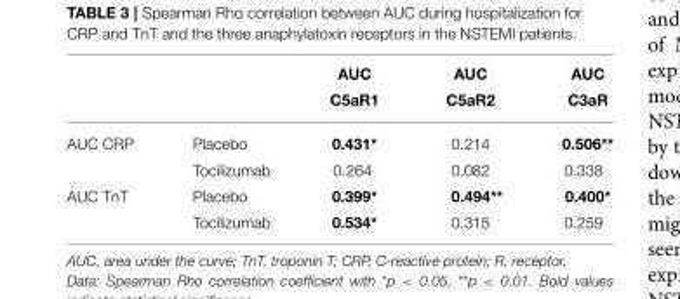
<table><thead><tr><td rowspan="2"></td><td rowspan="2"></td><td rowspan="2">AUC C5aR1</td><td rowspan="2">AUC C5aR2</td><td rowspan="2">AUC C3aR</td></tr><tr></tr></thead><tbody><tr><td rowspan="2">AUC CRP</td><td>Placebo</td><td>0.431*</td><td>0.214</td><td>0.506**</td></tr><tr><td>Tocilizumab</td><td>0.264</td><td>0.082</td><td>0.338</td></tr><tr><td rowspan="2">AUC TnT</td><td>Placebo</td><td>0.399*</td><td>0.494**</td><td>0.400*</td></tr><tr><td>Tocilizumab</td><td>0.534*</td><td>0.315</td><td>0.259</td></tr></tbody></table>